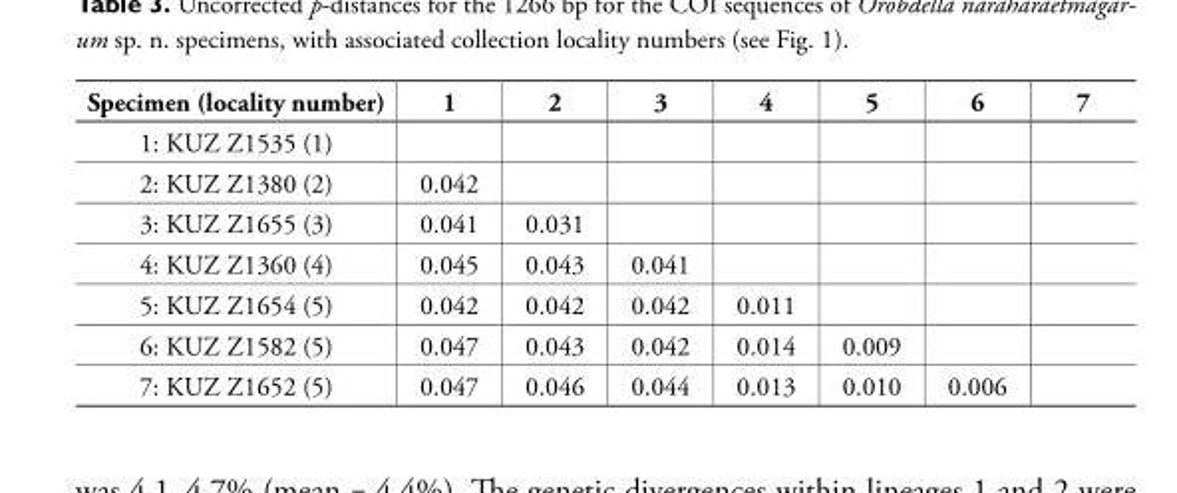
<table><thead><tr><td>Specimen (locality number)</td><td>1</td><td>2</td><td>3</td><td>4</td><td>5</td><td>6</td><td>7</td></tr></thead><tbody><tr><td colspan="8">1: KUZ Z1535 (1)</td></tr><tr><td>2: KUZ Z1380 (2)</td><td>0.042</td><td></td><td></td><td></td><td></td><td></td><td></td></tr><tr><td>3: KUZ Z1655 (3)</td><td>0.041</td><td>0.031</td><td></td><td></td><td></td><td></td><td></td></tr><tr><td>4: KUZ Z1360 (4)</td><td>0.045</td><td>0.043</td><td>0.041</td><td></td><td></td><td></td><td></td></tr><tr><td>5: KUZ Z1654 (5)</td><td>0.042</td><td>0.042</td><td>0.042</td><td>0.011</td><td></td><td></td><td></td></tr><tr><td>6: KUZ Z1582 (5)</td><td>0.047</td><td>0.043</td><td>0.042</td><td>0.014</td><td>0.009</td><td></td><td></td></tr><tr><td>7: KUZ Z1652 (5)</td><td>0.047</td><td>0.046</td><td>0.044</td><td>0.013</td><td>0.010</td><td>0.006</td><td></td></tr></tbody></table>